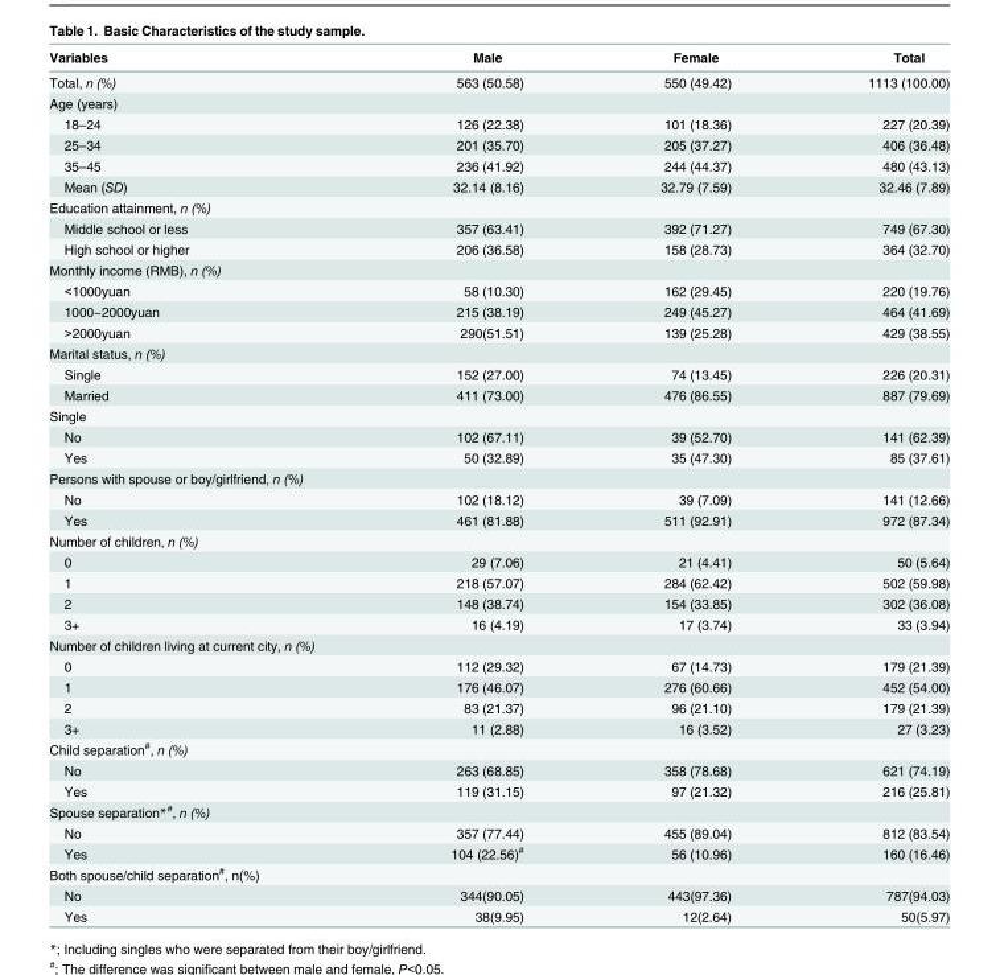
<table><thead><tr><td>Variables</td><td>Male</td><td>Female</td><td>Total</td></tr></thead><tbody><tr><td>Total, n (%)</td><td>563 (50.58)</td><td>550 (49.42)</td><td>1113 (100.00)</td></tr><tr><td colspan="4">Age (years)</td></tr><tr><td>18–24</td><td>126 (22.38)</td><td>101 (18.36)</td><td>227 (20.39)</td></tr><tr><td>25–34</td><td>201 (35.70)</td><td>205 (37.27)</td><td>406 (36.48)</td></tr><tr><td>35–45</td><td>236 (41.92)</td><td>244 (44.37)</td><td>480 (43.13)</td></tr><tr><td>Mean (SD)</td><td>32.14 (8.16)</td><td>32.79 (7.59)</td><td>32.46 (7.89)</td></tr><tr><td colspan="4">Education attainment, n (%)</td></tr><tr><td>Middle school or less</td><td>357 (63.41)</td><td>392 (71.27)</td><td>749 (67.30)</td></tr><tr><td>High school or higher</td><td>206 (36.58)</td><td>158 (28.73)</td><td>364 (32.70)</td></tr><tr><td colspan="4">Monthly income (RMB), n (%)</td></tr><tr><td>&lt;1000yuan</td><td>58 (10.30)</td><td>162 (29.45)</td><td>220 (19.76)</td></tr><tr><td>1000~2000yuan</td><td>215 (38.19)</td><td>249 (45.27)</td><td>464 (41.69)</td></tr><tr><td>&gt;2000yuan</td><td>290(51.51)</td><td>139 (25.28)</td><td>429 (38.55)</td></tr><tr><td colspan="4">Marital status, n (%)</td></tr><tr><td>Single</td><td>152 (27.00)</td><td>74 (13.45)</td><td>226 (20.31)</td></tr><tr><td>Married</td><td>411 (73.00)</td><td>476 (86.55)</td><td>887 (79.69)</td></tr><tr><td colspan="4">Single</td></tr><tr><td>No</td><td>102 (67.11)</td><td>39 (52.70)</td><td>141 (62.39)</td></tr><tr><td>Yes</td><td>50 (32.89)</td><td>35 (47.30)</td><td>85 (37.61)</td></tr><tr><td colspan="4">Persons with spouse or boy/girlfriend, n (%)</td></tr><tr><td>No</td><td>102 (18.12)</td><td>39 (7.09)</td><td>141 (12.66)</td></tr><tr><td>Yes</td><td>461 (81.88)</td><td>511 (92.91)</td><td>972 (87.34)</td></tr><tr><td colspan="4">Number of children, n (%)</td></tr><tr><td>0</td><td>29 (7.06)</td><td>21 (4.41)</td><td>50 (5.64)</td></tr><tr><td>1</td><td>218 (57.07)</td><td>284 (62.42)</td><td>502 (59.98)</td></tr><tr><td>2</td><td>148 (38.74)</td><td>154 (33.85)</td><td>302 (36.08)</td></tr><tr><td>3+</td><td>16 (4.19)</td><td>17 (3.74)</td><td>33 (3.94)</td></tr><tr><td colspan="4">Number of children living at current city, n (%)</td></tr><tr><td>0</td><td>112 (29.32)</td><td>67 (14.73)</td><td>179 (21.39)</td></tr><tr><td>1</td><td>176 (46.07)</td><td>276 (60.66)</td><td>452 (54.00)</td></tr><tr><td>2</td><td>83 (21.37)</td><td>96 (21.10)</td><td>179 (21.39)</td></tr><tr><td>3+</td><td>11 (2.88)</td><td>16 (3.52)</td><td>27 (3.23)</td></tr><tr><td colspan="4">Child separation<sup>#</sup>, n (%)</td></tr><tr><td>No</td><td>263 (68.85)</td><td>358 (78.68)</td><td>621 (74.19)</td></tr><tr><td>Yes</td><td>119 (31.15)</td><td>97 (21.32)</td><td>216 (25.81)</td></tr><tr><td colspan="4">Spouse separation*<sup>#</sup>, n (%)</td></tr><tr><td>No</td><td>357 (77.44)</td><td>455 (89.04)</td><td>812 (83.54)</td></tr><tr><td>Yes</td><td>104 (22.56)<sup>#</sup></td><td>56 (10.96)</td><td>160 (16.46)</td></tr><tr><td colspan="4">Both spouse/child separation<sup>#</sup>, n(%)</td></tr><tr><td>No</td><td>344(90.05)</td><td>443(97.36)</td><td>787(94.03)</td></tr><tr><td>Yes</td><td>38(9.95)</td><td>12(2.64)</td><td>50(5.97)</td></tr></tbody></table>